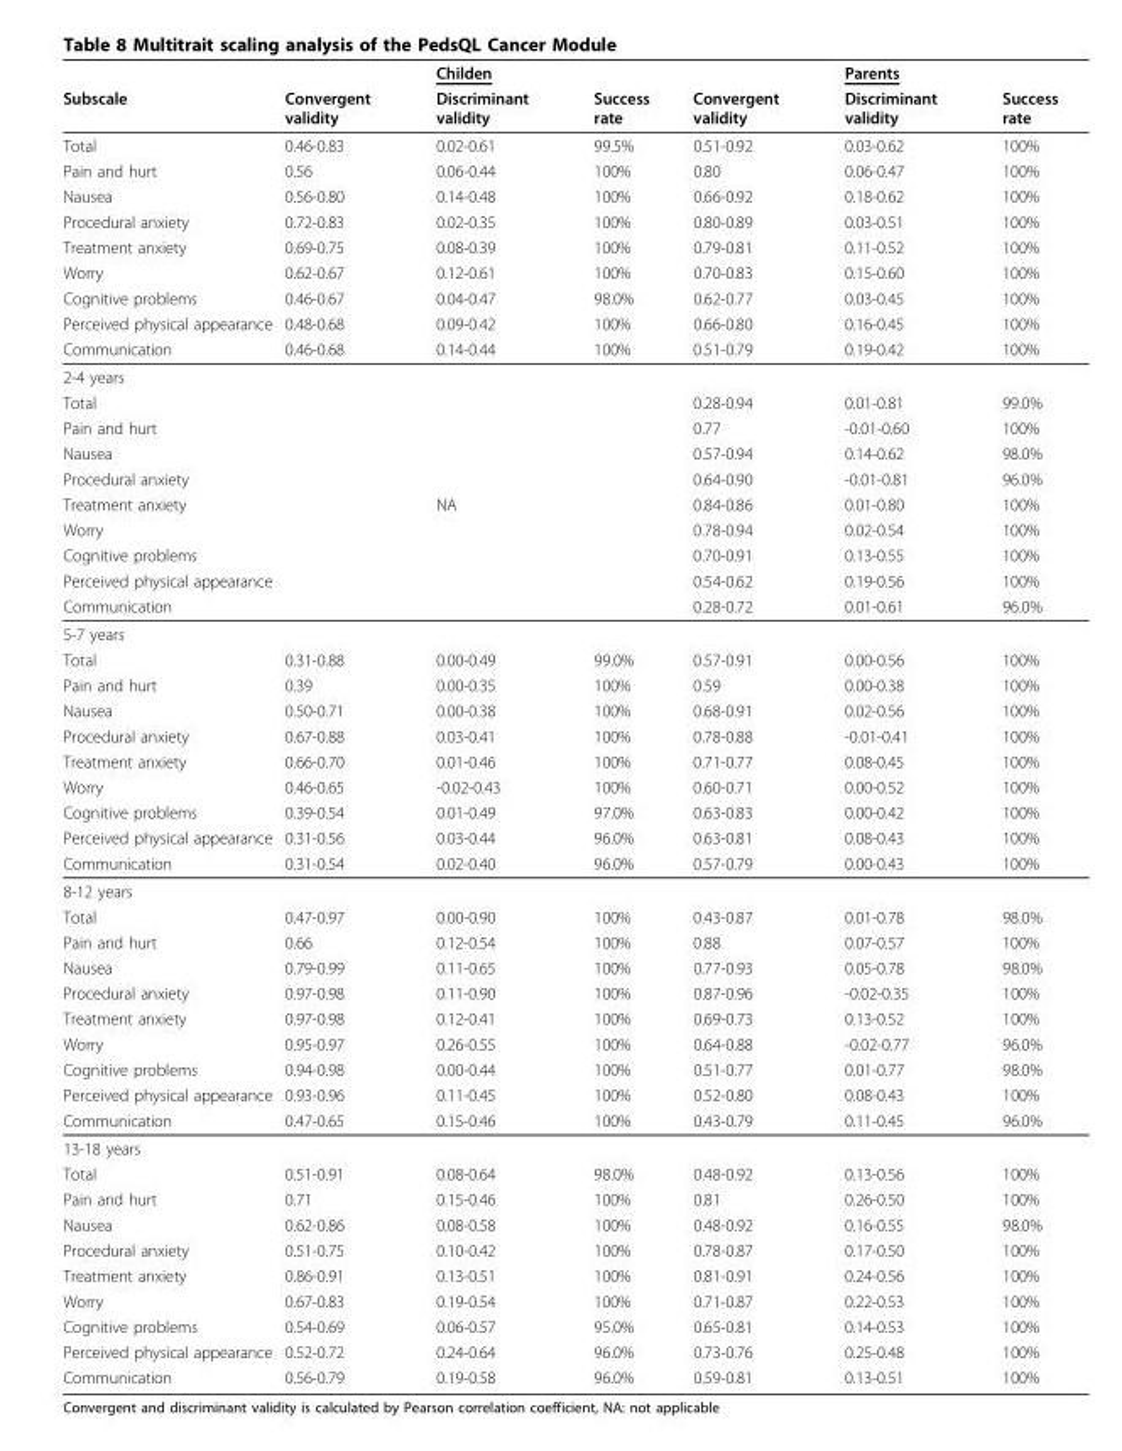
<table><thead><tr><td rowspan="2">Subscale</td><td rowspan="2">Convergent validity</td><td rowspan="2">Childen Discriminant validity</td><td rowspan="2">Success rate</td><td rowspan="2">Convergent validity</td><td rowspan="2">Parents Discriminant validity</td><td rowspan="2">Success rate</td></tr><tr></tr></thead><tbody><tr><td>Total</td><td>0.46-0.83</td><td>0.02-0.61</td><td>99.5%</td><td>0.51-0.92</td><td>0.03-0.62</td><td>100%</td></tr><tr><td>Pain and hurt</td><td>0.56</td><td>0.06-0.44</td><td>100%</td><td>0.80</td><td>0.06-0.47</td><td>100%</td></tr><tr><td>Nausea</td><td>0.56-0.80</td><td>0.14-0.48</td><td>100%</td><td>0.66-0.92</td><td>0.18-0.62</td><td>100%</td></tr><tr><td>Procedural anxiety</td><td>0.72-0.83</td><td>0.02-0.35</td><td>100%</td><td>0.80-0.89</td><td>0.03-0.51</td><td>100%</td></tr><tr><td>Treatment anxiety</td><td>0.69-0.75</td><td>0.08-0.39</td><td>100%</td><td>0.79-0.81</td><td>0.11-0.52</td><td>100%</td></tr><tr><td>Worry</td><td>0.62-0.67</td><td>0.12-0.61</td><td>100%</td><td>0.70-0.83</td><td>0.15-0.60</td><td>100%</td></tr><tr><td>Cognitive problems</td><td>0.46-0.67</td><td>0.04-0.47</td><td>98.0%</td><td>0.62-0.77</td><td>0.03-0.45</td><td>100%</td></tr><tr><td>Perceived physical appearance</td><td>0.48-0.68</td><td>0.09-0.42</td><td>100%</td><td>0.66-0.80</td><td>0.16-0.45</td><td>100%</td></tr><tr><td>Communication</td><td>0.46-0.68</td><td>0.14-0.44</td><td>100%</td><td>0.51-0.79</td><td>0.19-0.42</td><td>100%</td></tr><tr><td colspan="7">2-4 years</td></tr><tr><td>Total</td><td></td><td></td><td></td><td>0.28-0.94</td><td>0.01-0.81</td><td>99.0%</td></tr><tr><td>Pain and hurt</td><td></td><td></td><td></td><td>0.77</td><td>-0.01-0.60</td><td>100%</td></tr><tr><td>Nausea</td><td></td><td></td><td></td><td>0.57-0.94</td><td>0.14-0.62</td><td>98.0%</td></tr><tr><td>Procedural anxiety</td><td></td><td></td><td></td><td>0.64-0.90</td><td>-0.01-0.81</td><td>96.0%</td></tr><tr><td>Treatment anxiety</td><td></td><td>NA</td><td></td><td>0.84-0.86</td><td>0.01-0.80</td><td>100%</td></tr><tr><td>Worry</td><td></td><td></td><td></td><td>0.78-0.94</td><td>0.02-0.54</td><td>100%</td></tr><tr><td>Cognitive problems</td><td></td><td></td><td></td><td>0.70-0.91</td><td>0.13-0.55</td><td>100%</td></tr><tr><td>Perceived physical appearance</td><td></td><td></td><td></td><td>0.54-0.62</td><td>0.19-0.56</td><td>100%</td></tr><tr><td>Communication</td><td></td><td></td><td></td><td>0.28-0.72</td><td>0.01-0.61</td><td>96.0%</td></tr><tr><td colspan="7">5-7 years</td></tr><tr><td>Total</td><td>0.31-0.88</td><td>0.00-0.49</td><td>99.0%</td><td>0.57-0.91</td><td>0.00-0.56</td><td>100%</td></tr><tr><td>Pain and hurt</td><td>0.39</td><td>0.00-0.35</td><td>100%</td><td>0.59</td><td>0.00-0.38</td><td>100%</td></tr><tr><td>Nausea</td><td>0.50-0.71</td><td>0.00-0.38</td><td>100%</td><td>0.68-0.91</td><td>0.02-0.56</td><td>100%</td></tr><tr><td>Procedural anxiety</td><td>0.67-0.88</td><td>0.03-0.41</td><td>100%</td><td>0.78-0.88</td><td>-0.01-0.41</td><td>100%</td></tr><tr><td>Treatment anxiety</td><td>0.66-0.70</td><td>0.01-0.46</td><td>100%</td><td>0.71-0.77</td><td>0.08-0.45</td><td>100%</td></tr><tr><td>Worry</td><td>0.46-0.65</td><td>-0.02-0.43</td><td>100%</td><td>0.60-0.71</td><td>0.00-0.52</td><td>100%</td></tr><tr><td>Cognitive problems</td><td>0.39-0.54</td><td>0.01-0.49</td><td>97.0%</td><td>0.63-0.83</td><td>0.00-0.42</td><td>100%</td></tr><tr><td>Perceived physical appearance</td><td>0.31-0.56</td><td>0.03-0.44</td><td>96.0%</td><td>0.63-0.81</td><td>0.08-0.43</td><td>100%</td></tr><tr><td>Communication</td><td>0.31-0.54</td><td>0.02-0.40</td><td>96.0%</td><td>0.57-0.79</td><td>0.00-0.43</td><td>100%</td></tr><tr><td colspan="7">8-12 years</td></tr><tr><td>Total</td><td>0.47-0.97</td><td>0.00-0.90</td><td>100%</td><td>0.43-0.87</td><td>0.01-0.78</td><td>98.0%</td></tr><tr><td>Pain and hurt</td><td>0.66</td><td>0.12-0.54</td><td>100%</td><td>0.88</td><td>0.07-0.57</td><td>100%</td></tr><tr><td>Nausea</td><td>0.79-0.99</td><td>0.11-0.65</td><td>100%</td><td>0.77-0.93</td><td>0.05-0.78</td><td>98.0%</td></tr><tr><td>Procedural anxiety</td><td>0.97-0.98</td><td>0.11-0.90</td><td>100%</td><td>0.87-0.96</td><td>-0.02-0.35</td><td>100%</td></tr><tr><td>Treatment anxiety</td><td>0.97-0.98</td><td>0.12-0.41</td><td>100%</td><td>0.69-0.73</td><td>0.13-0.52</td><td>100%</td></tr><tr><td>Worry</td><td>0.95-0.97</td><td>0.26-0.55</td><td>100%</td><td>0.64-0.88</td><td>-0.02-0.77</td><td>96.0%</td></tr><tr><td>Cognitive problems</td><td>0.94-0.98</td><td>0.00-0.44</td><td>100%</td><td>0.51-0.77</td><td>0.01-0.77</td><td>98.0%</td></tr><tr><td>Perceived physical appearance</td><td>0.93-0.96</td><td>0.11-0.45</td><td>100%</td><td>0.52-0.80</td><td>0.08-0.43</td><td>100%</td></tr><tr><td>Communication</td><td>0.47-0.65</td><td>0.15-0.46</td><td>100%</td><td>0.43-0.79</td><td>0.11-0.45</td><td>96.0%</td></tr><tr><td colspan="7">13-18 years</td></tr><tr><td>Total</td><td>0.51-0.91</td><td>0.08-0.64</td><td>98.0%</td><td>0.48-0.92</td><td>0.13-0.56</td><td>100%</td></tr><tr><td>Pain and hurt</td><td>0.71</td><td>0.15-0.46</td><td>100%</td><td>0.81</td><td>0.26-0.50</td><td>100%</td></tr><tr><td>Nausea</td><td>0.62-0.86</td><td>0.08-0.58</td><td>100%</td><td>0.48-0.92</td><td>0.16-0.55</td><td>98.0%</td></tr><tr><td>Procedural anxiety</td><td>0.51-0.75</td><td>0.10-0.42</td><td>100%</td><td>0.78-0.87</td><td>0.17-0.50</td><td>100%</td></tr><tr><td>Treatment anxiety</td><td>0.86-0.91</td><td>0.13-0.51</td><td>100%</td><td>0.81-0.91</td><td>0.24-0.56</td><td>100%</td></tr><tr><td>Worry</td><td>0.67-0.83</td><td>0.19-0.54</td><td>100%</td><td>0.71-0.87</td><td>0.22-0.53</td><td>100%</td></tr><tr><td>Cognitive problems</td><td>0.54-0.69</td><td>0.06-0.57</td><td>95.0%</td><td>0.65-0.81</td><td>0.14-0.53</td><td>100%</td></tr><tr><td>Perceived physical appearance</td><td>0.52-0.72</td><td>0.24-0.64</td><td>96.0%</td><td>0.73-0.76</td><td>0.25-0.48</td><td>100%</td></tr><tr><td>Communication</td><td>0.56-0.79</td><td>0.19-0.58</td><td>96.0%</td><td>0.59-0.81</td><td>0.13-0.51</td><td>100%</td></tr></tbody></table>